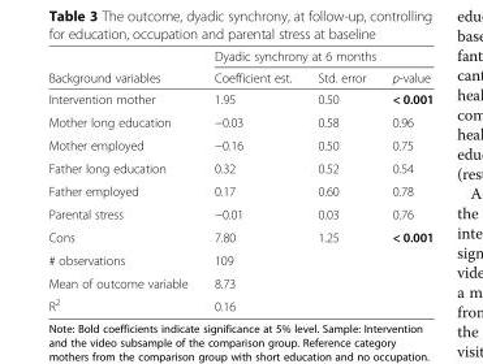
<table><thead><tr><td rowspan="2">Background variables</td><td colspan="3">Dyadic synchrony at 6 months</td></tr><tr><td>Coefficient est.</td><td>Std. error</td><td>p-value</td></tr></thead><tbody><tr><td>Intervention mother</td><td>1.95</td><td>0.50</td><td>&lt; 0.001</td></tr><tr><td>Mother long education</td><td>−0.03</td><td>0.58</td><td>0.96</td></tr><tr><td>Mother employed</td><td>−0.16</td><td>0.50</td><td>0.75</td></tr><tr><td>Father long education</td><td>0.32</td><td>0.52</td><td>0.54</td></tr><tr><td>Father employed</td><td>0.17</td><td>0.60</td><td>0.78</td></tr><tr><td>Parental stress</td><td>−0.01</td><td>0.03</td><td>0.76</td></tr><tr><td>Cons</td><td>7.80</td><td>1.25</td><td>&lt; 0.001</td></tr><tr><td># observations</td><td colspan="3">109</td></tr><tr><td>Mean of outcome variable</td><td colspan="3">8.73</td></tr><tr><td>R<sup>2</sup></td><td colspan="3">0.16</td></tr></tbody></table>